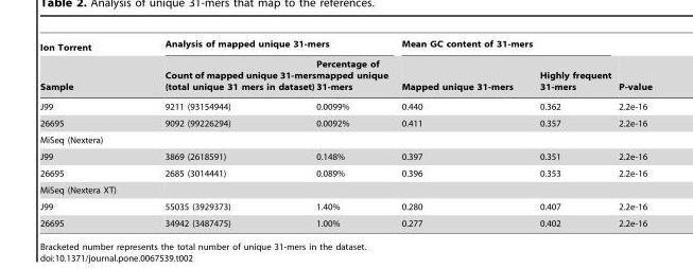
<table><thead><tr><td rowspan="2">Ion Torrent Sample</td><td colspan="2">Analysis of mapped unique 31-mers</td><td colspan="2">Mean GC content of 31-mers</td><td rowspan="2">P-value</td></tr><tr><td>Count of mapped unique 31-mers (total unique 31 mers in dataset)</td><td>Percentage of mapped unique 31-mers</td><td>Mapped unique 31-mers</td><td>Highly frequent 31-mers</td></tr></thead><tbody><tr><td>J99</td><td>9211 (93154944)</td><td>0.0099%</td><td>0.440</td><td>0.362</td><td>2.2e-16</td></tr><tr><td>26695</td><td>9092 (99226294)</td><td>0.0092%</td><td>0.411</td><td>0.357</td><td>2.2e-16</td></tr><tr><td colspan="6">MiSeq (Nextera)</td></tr><tr><td>J99</td><td>3869 (2618591)</td><td>0.148%</td><td>0.397</td><td>0.351</td><td>2.2e-16</td></tr><tr><td>26695</td><td>2685 (3014441)</td><td>0.089%</td><td>0.396</td><td>0.353</td><td>2.2e-16</td></tr><tr><td colspan="6">MiSeq (Nextera XT)</td></tr><tr><td>J99</td><td>55035 (3929373)</td><td>1.40%</td><td>0.280</td><td>0.407</td><td>2.2e-16</td></tr><tr><td>26695</td><td>34942 (3487475)</td><td>1.00%</td><td>0.277</td><td>0.402</td><td>2.2e-16</td></tr></tbody></table>